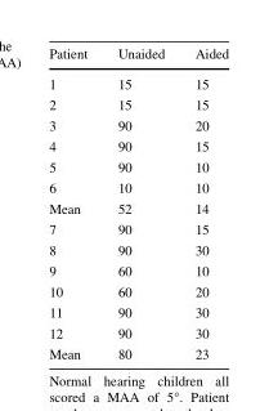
<table><thead><tr><td>Patient</td><td>Unaided</td><td>Aided</td></tr></thead><tbody><tr><td>1</td><td>15</td><td>15</td></tr><tr><td>2</td><td>15</td><td>15</td></tr><tr><td>3</td><td>90</td><td>20</td></tr><tr><td>4</td><td>90</td><td>15</td></tr><tr><td>5</td><td>90</td><td>10</td></tr><tr><td>6</td><td>10</td><td>10</td></tr><tr><td>Mean</td><td>52</td><td>14</td></tr><tr><td>7</td><td>90</td><td>15</td></tr><tr><td>8</td><td>90</td><td>30</td></tr><tr><td>9</td><td>60</td><td>10</td></tr><tr><td>10</td><td>60</td><td>20</td></tr><tr><td>11</td><td>90</td><td>30</td></tr><tr><td>12</td><td>90</td><td>30</td></tr><tr><td>Mean</td><td>80</td><td>23</td></tr></tbody></table>